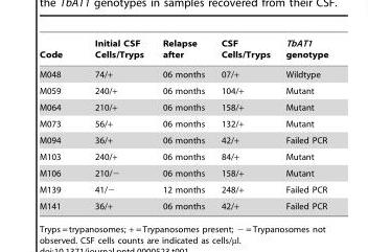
<table><thead><tr><td>Code</td><td>Initial CSF Cells/Tryps</td><td>Relapse after</td><td>CSF Cells/Tryps</td><td>TbAT1 genotype</td></tr></thead><tbody><tr><td>M048</td><td>74/+</td><td>06 months</td><td>07/+</td><td>Wildtype</td></tr><tr><td>M059</td><td>240/+</td><td>06 months</td><td>104/+</td><td>Mutant</td></tr><tr><td>M064</td><td>210/+</td><td>06 months</td><td>158/+</td><td>Mutant</td></tr><tr><td>M073</td><td>56/+</td><td>06 months</td><td>132/+</td><td>Mutant</td></tr><tr><td>M094</td><td>36/+</td><td>06 months</td><td>42/+</td><td>Failed PCR</td></tr><tr><td>M103</td><td>240/+</td><td>06 months</td><td>84/+</td><td>Mutant</td></tr><tr><td>M106</td><td>210/−</td><td>06 months</td><td>158/+</td><td>Mutant</td></tr><tr><td>M139</td><td>41/−</td><td>12 months</td><td>248/+</td><td>Failed PCR</td></tr><tr><td>M141</td><td>36/+</td><td>06 months</td><td>42/+</td><td>Failed PCR</td></tr></tbody></table>